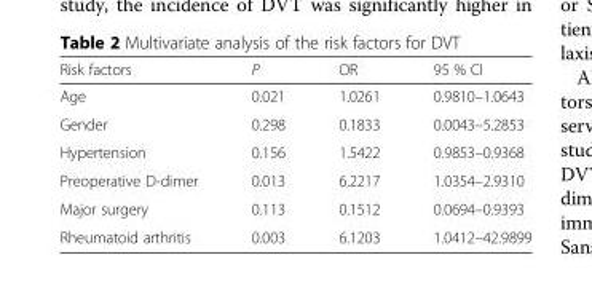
<table><thead><tr><td>Risk factors</td><td>P</td><td>OR</td><td>95 % CI</td></tr></thead><tbody><tr><td>Age</td><td>0.021</td><td>1.0261</td><td>0.9810–1.0643</td></tr><tr><td>Gender</td><td>0.298</td><td>0.1833</td><td>0.0043–5.2853</td></tr><tr><td>Hypertension</td><td>0.156</td><td>1.5422</td><td>0.9853–0.9368</td></tr><tr><td>Preoperative D-dimer</td><td>0.013</td><td>6.2217</td><td>1.0354–2.9310</td></tr><tr><td>Major surgery</td><td>0.113</td><td>0.1512</td><td>0.0694–0.9393</td></tr><tr><td>Rheumatoid arthritis</td><td>0.003</td><td>6.1203</td><td>1.0412–42.9899</td></tr></tbody></table>